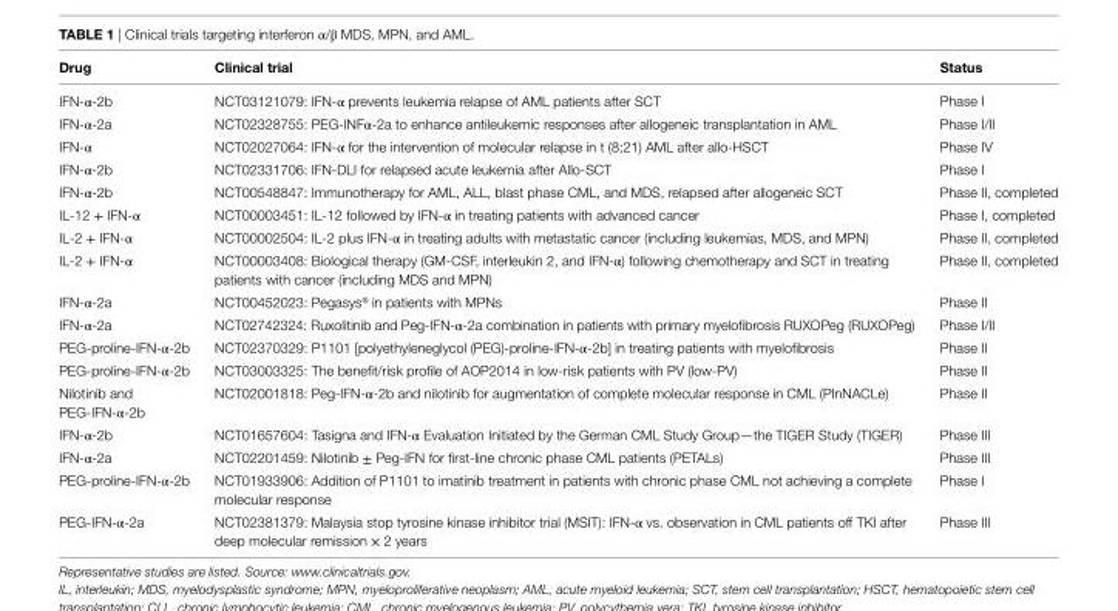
<table><thead><tr><td>Drug</td><td>Clinical trial</td><td>Status</td></tr></thead><tbody><tr><td>IFN-α-2b</td><td>NCT03121079: IFN-α prevents leukemia relapse of AML patients after SCT</td><td>Phase I</td></tr><tr><td>IFN-α-2a</td><td>NCT02328755: PEG-INFα-2a to enhance antileukemic responses after allogeneic transplantation in AML</td><td>Phase I/II</td></tr><tr><td>IFN-α</td><td>NCT02027064: IFN-α for the intervention of molecular relapse in t (8;21) AML after allo-HSCT</td><td>Phase IV</td></tr><tr><td>IFN-α-2b</td><td>NCT02331706: IFN-DLI for relapsed acute leukemia after Allo-SCT</td><td>Phase I</td></tr><tr><td>IFN-α-2b</td><td>NCT00548847: Immunotherapy for AML, ALL, blast phase CML, and MDS, relapsed after allogeneic SCT</td><td>Phase II, completed</td></tr><tr><td>IL-12 + IFN-α</td><td>NCT00003451: IL-12 followed by IFN-α in treating patients with advanced cancer</td><td>Phase I, completed</td></tr><tr><td>IL-2 + IFN-α</td><td>NCT00002504: IL-2 plus IFN-α in treating adults with metastatic cancer (including leukemias, MDS, and MPN)</td><td>Phase II, completed</td></tr><tr><td>IL-2 + IFN-α</td><td>NCT00003408: Biological therapy (GM-CSF, interleukin 2, and IFN-α) following chemotherapy and SCT in treating patients with cancer (including MDS and MPN)</td><td>Phase II, completed</td></tr><tr><td>IFN-α-2a</td><td>NCT00452023: Pegasys<sup>®</sup> in patients with MPNs</td><td>Phase II</td></tr><tr><td>IFN-α-2a</td><td>NCT02742324: Ruxolitinib and Peg-IFN-α-2a combination in patients with primary myelofibrosis RUXOPeg (RUXOPeg)</td><td>Phase I/II</td></tr><tr><td>PEG-proline-IFN-α-2b</td><td>NCT02370329: P1101 [polyethyleneglycol (PEG)-proline-IFN-α-2b] in treating patients with myelofibrosis</td><td>Phase II</td></tr><tr><td>PEG-proline-IFN-α-2b</td><td>NCT03003325: The benefit/risk profile of AOP2014 in low-risk patients with PV (low-PV)</td><td>Phase II</td></tr><tr><td>Nilotinib and PEG-IFN-α-2b</td><td>NCT02001818: Peg-IFN-α-2b and nilotinib for augmentation of complete molecular response in CML (PInNACLe)</td><td>Phase II</td></tr><tr><td>IFN-α-2b</td><td>NCT01657604: Tasigna and IFN-α Evaluation Initiated by the German CML Study Group—the TIGER Study (TIGER)</td><td>Phase III</td></tr><tr><td>IFN-α-2a</td><td>NCT02201459: Nilotinib ± Peg-IFN for first-line chronic phase CML patients (PETALs)</td><td>Phase III</td></tr><tr><td>PEG-proline-IFN-α-2b</td><td>NCT01933906: Addition of P1101 to imatinib treatment in patients with chronic phase CML not achieving a complete molecular response</td><td>Phase I</td></tr><tr><td>PEG-IFN-α-2a</td><td>NCT02381379: Malaysia stop tyrosine kinase inhibitor trial (MSIT): IFN-α vs. observation in CML patients off TKI after deep molecular remission × 2 years</td><td>Phase III</td></tr></tbody></table>